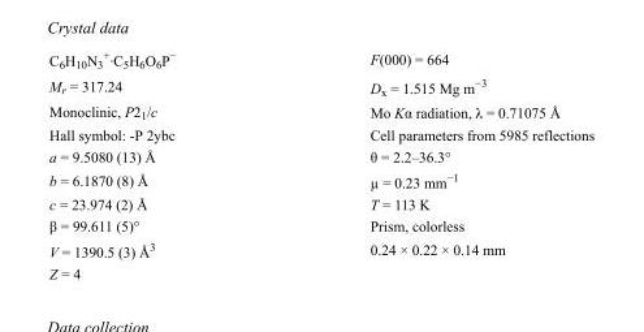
<table><tbody><tr><td>C<sub>6</sub>H<sub>10</sub>N<sub>3</sub> <sup>+</sup>·C<sub>5</sub>H<sub>6</sub>O<sub>6</sub>P<sup>−</sup></td><td>F(000) = 664</td></tr><tr><td>M<sub>r</sub> = 317.24</td><td>D<sub>x</sub> = 1.515 Mg m<sup>−3</sup></td></tr><tr><td>Monoclinic, P2<sub>1</sub>/c</td><td>Mo Kα radiation, λ = 0.71075 Å</td></tr><tr><td>Hall symbol: -P 2ybc</td><td>Cell parameters from 5985 reflections</td></tr><tr><td>a = 9.5080 (13) Å</td><td>θ = 2.2–36.3°</td></tr><tr><td>b = 6.1870 (8) Å</td><td>µ = 0.23 mm<sup>−1</sup></td></tr><tr><td>c = 23.974 (2) Å</td><td>T = 113 K</td></tr><tr><td>β = 99.611 (5)°</td><td>Prism, colorless</td></tr><tr><td>V = 1390.5 (3) Å<sup>3</sup></td><td>0.24 × 0.22 × 0.14 mm</td></tr><tr><td>Z = 4</td><td></td></tr></tbody></table>